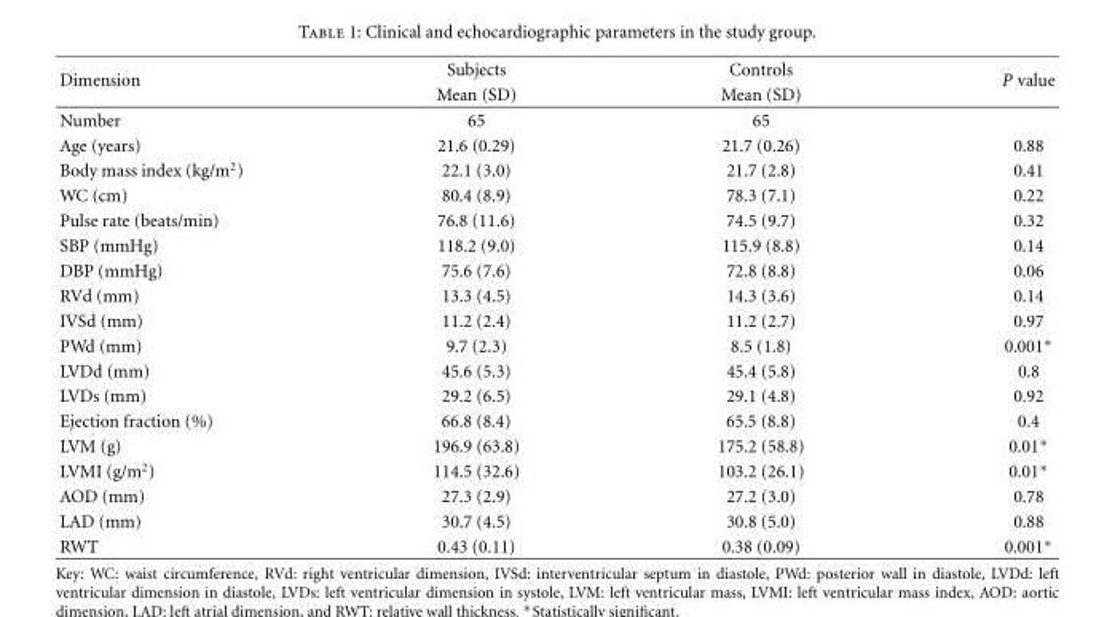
<table><thead><tr><td rowspan="2">Dimension</td><td rowspan="2">Subjects Mean (SD)</td><td rowspan="2">Controls Mean (SD)</td><td rowspan="2">P value</td></tr><tr></tr></thead><tbody><tr><td>Number</td><td>65</td><td>65</td><td></td></tr><tr><td>Age (years)</td><td>21.6 (0.29)</td><td>21.7 (0.26)</td><td>0.88</td></tr><tr><td>Body mass index (kg/m<sup>2</sup>)</td><td>22.1 (3.0)</td><td>21.7 (2.8)</td><td>0.41</td></tr><tr><td>WC (cm)</td><td>80.4 (8.9)</td><td>78.3 (7.1)</td><td>0.22</td></tr><tr><td>Pulse rate (beats/min)</td><td>76.8 (11.6)</td><td>74.5 (9.7)</td><td>0.32</td></tr><tr><td>SBP (mmHg)</td><td>118.2 (9.0)</td><td>115.9 (8.8)</td><td>0.14</td></tr><tr><td>DBP (mmHg)</td><td>75.6 (7.6)</td><td>72.8 (8.8)</td><td>0.06</td></tr><tr><td>RVd (mm)</td><td>13.3 (4.5)</td><td>14.3 (3.6)</td><td>0.14</td></tr><tr><td>IVSd (mm)</td><td>11.2 (2.4)</td><td>11.2 (2.7)</td><td>0.97</td></tr><tr><td>PWd (mm)</td><td>9.7 (2.3)</td><td>8.5 (1.8)</td><td>0.001∗</td></tr><tr><td>LVDd (mm)</td><td>45.6 (5.3)</td><td>45.4 (5.8)</td><td>0.8</td></tr><tr><td>LVDs (mm)</td><td>29.2 (6.5)</td><td>29.1 (4.8)</td><td>0.92</td></tr><tr><td>Ejection fraction (%)</td><td>66.8 (8.4)</td><td>65.5 (8.8)</td><td>0.4</td></tr><tr><td>LVM (g)</td><td>196.9 (63.8)</td><td>175.2 (58.8)</td><td>0.01∗</td></tr><tr><td>LVMI (g/m<sup>2</sup>)</td><td>114.5 (32.6)</td><td>103.2 (26.1)</td><td>0.01∗</td></tr><tr><td>AOD (mm)</td><td>27.3 (2.9)</td><td>27.2 (3.0)</td><td>0.78</td></tr><tr><td>LAD (mm)</td><td>30.7 (4.5)</td><td>30.8 (5.0)</td><td>0.88</td></tr><tr><td>RWT</td><td>0.43 (0.11)</td><td>0.38 (0.09)</td><td>0.001∗</td></tr></tbody></table>